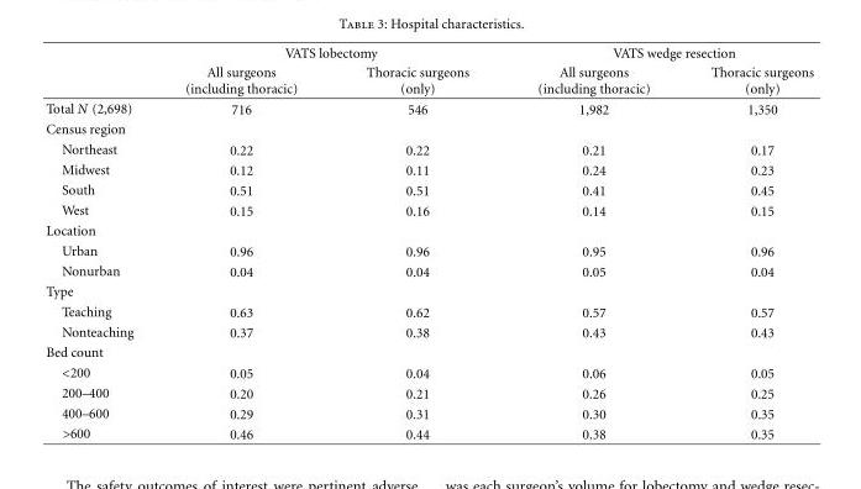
<table><thead><tr><td rowspan="2"></td><td colspan="2">VATS lobectomy</td><td colspan="2">VATS wedge resection</td></tr><tr><td>All surgeons (including thoracic)</td><td>Thoracic surgeons (only)</td><td>All surgeons (including thoracic)</td><td>Thoracic surgeons (only)</td></tr></thead><tbody><tr><td>Total N (2,698)</td><td>716</td><td>546</td><td>1,982</td><td>1,350</td></tr><tr><td colspan="5">Census region</td></tr><tr><td>Northeast</td><td>0.22</td><td>0.22</td><td>0.21</td><td>0.17</td></tr><tr><td>Midwest</td><td>0.12</td><td>0.11</td><td>0.24</td><td>0.23</td></tr><tr><td>South</td><td>0.51</td><td>0.51</td><td>0.41</td><td>0.45</td></tr><tr><td>West</td><td>0.15</td><td>0.16</td><td>0.14</td><td>0.15</td></tr><tr><td colspan="5">Location</td></tr><tr><td>Urban</td><td>0.96</td><td>0.96</td><td>0.95</td><td>0.96</td></tr><tr><td>Nonurban</td><td>0.04</td><td>0.04</td><td>0.05</td><td>0.04</td></tr><tr><td colspan="5">Type</td></tr><tr><td>Teaching</td><td>0.63</td><td>0.62</td><td>0.57</td><td>0.57</td></tr><tr><td>Nonteaching</td><td>0.37</td><td>0.38</td><td>0.43</td><td>0.43</td></tr><tr><td colspan="5">Bed count</td></tr><tr><td>&lt;200</td><td>0.05</td><td>0.04</td><td>0.06</td><td>0.05</td></tr><tr><td>200–400</td><td>0.20</td><td>0.21</td><td>0.26</td><td>0.25</td></tr><tr><td>400–600</td><td>0.29</td><td>0.31</td><td>0.30</td><td>0.35</td></tr><tr><td>&gt;600</td><td>0.46</td><td>0.44</td><td>0.38</td><td>0.35</td></tr></tbody></table>